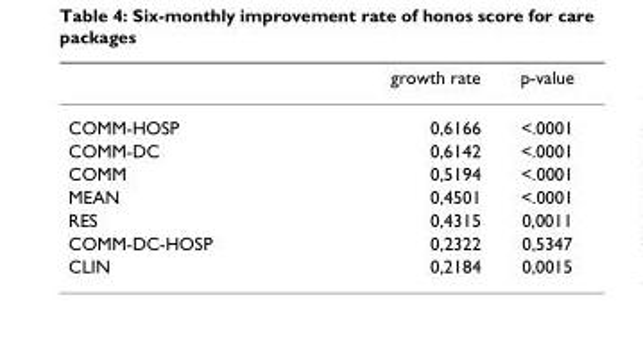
<table><thead><tr><td></td><td>growth rate</td><td>p-value</td></tr></thead><tbody><tr><td>COMM-HOSP</td><td>0,6166</td><td>&lt;.0001</td></tr><tr><td>COMM-DC</td><td>0,6142</td><td>&lt;.0001</td></tr><tr><td>COMM</td><td>0,5194</td><td>&lt;.0001</td></tr><tr><td>MEAN</td><td>0,4501</td><td>&lt;.0001</td></tr><tr><td>RES</td><td>0,4315</td><td>0,0011</td></tr><tr><td>COMM-DC-HOSP</td><td>0,2322</td><td>0,5347</td></tr><tr><td>CLIN</td><td>0,2184</td><td>0,0015</td></tr></tbody></table>